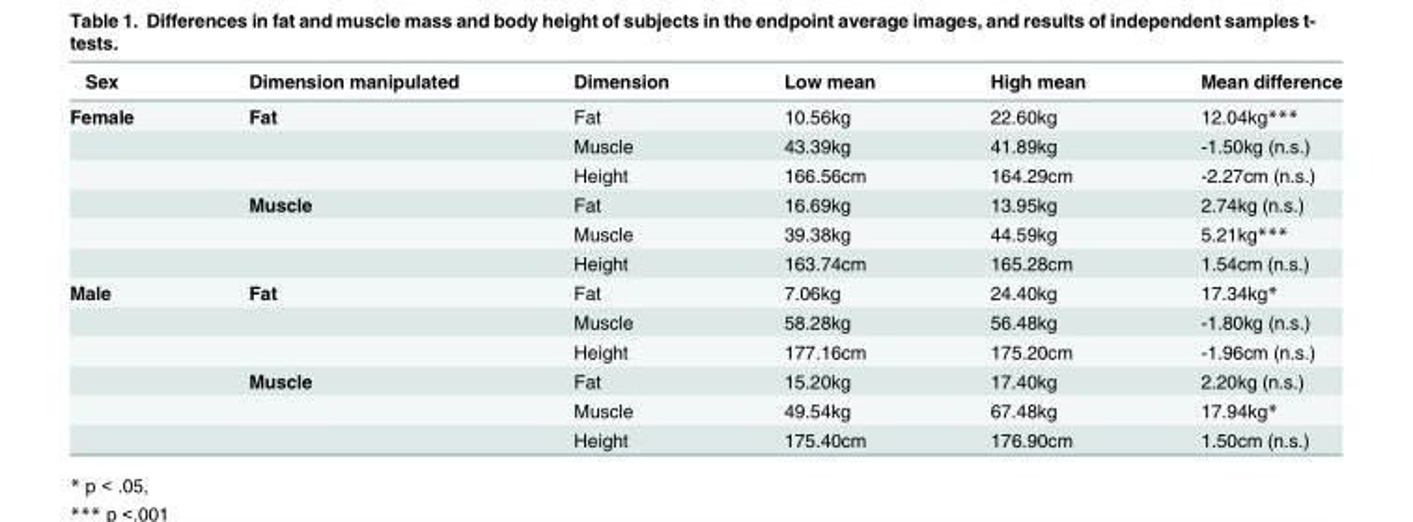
<table><thead><tr><td>Sex</td><td>Dimension manipulated</td><td>Dimension</td><td>Low mean</td><td>High mean</td><td>Mean difference</td></tr></thead><tbody><tr><td rowspan="6">Female</td><td>Fat</td><td>Fat</td><td>10.56kg</td><td>22.60kg</td><td>12.04kg***</td></tr><tr><td></td><td>Muscle</td><td>43.39kg</td><td>41.89kg</td><td>-1.50kg (n.s.)</td></tr><tr><td></td><td>Height</td><td>166.56cm</td><td>164.29cm</td><td>-2.27cm (n.s.)</td></tr><tr><td>Muscle</td><td>Fat</td><td>16.69kg</td><td>13.95kg</td><td>2.74kg (n.s.)</td></tr><tr><td></td><td>Muscle</td><td>39.38kg</td><td>44.59kg</td><td>5.21kg***</td></tr><tr><td></td><td>Height</td><td>163.74cm</td><td>165.28cm</td><td>1.54cm (n.s.)</td></tr><tr><td rowspan="6">Male</td><td>Fat</td><td>Fat</td><td>7.06kg</td><td>24.40kg</td><td>17.34kg*</td></tr><tr><td></td><td>Muscle</td><td>58.28kg</td><td>56.48kg</td><td>-1.80kg (n.s.)</td></tr><tr><td></td><td>Height</td><td>177.16cm</td><td>175.20cm</td><td>-1.96cm (n.s.)</td></tr><tr><td>Muscle</td><td>Fat</td><td>15.20kg</td><td>17.40kg</td><td>2.20kg (n.s.)</td></tr><tr><td></td><td>Muscle</td><td>49.54kg</td><td>67.48kg</td><td>17.94kg*</td></tr><tr><td></td><td>Height</td><td>175.40cm</td><td>176.90cm</td><td>1.50cm (n.s.)</td></tr></tbody></table>